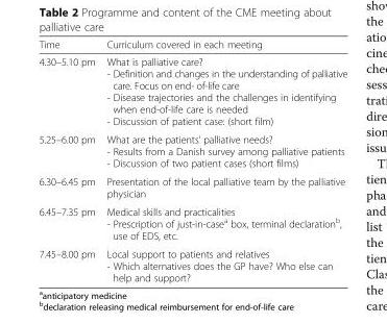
<table><thead><tr><td>Time</td><td>Curriculum covered in each meeting</td></tr></thead><tbody><tr><td>4.30–5.10 pm</td><td>What is palliative care? - Definition and changes in the understanding of palliative care. Focus on end- of-life care - Disease trajectories and the challenges in identifying when end-of-life care is needed - Discussion of patient case: (short film)</td></tr><tr><td>5.25–6.00 pm</td><td>What are the patients’ palliative needs? - Results from a Danish survey among palliative patients - Discussion of two patient cases (short films)</td></tr><tr><td>6.30–6.45 pm</td><td>Presentation of the local palliative team by the palliative physician</td></tr><tr><td>6.45–7.35 pm</td><td>Medical skills and practicalities - Prescription of just-in-case<sup>a</sup> box, terminal declaration<sup>b</sup>, use of EDS, etc.</td></tr><tr><td>7.45–8.00 pm</td><td>Local support to patients and relatives - Which alternatives does the GP have? Who else can help and support?</td></tr></tbody></table>